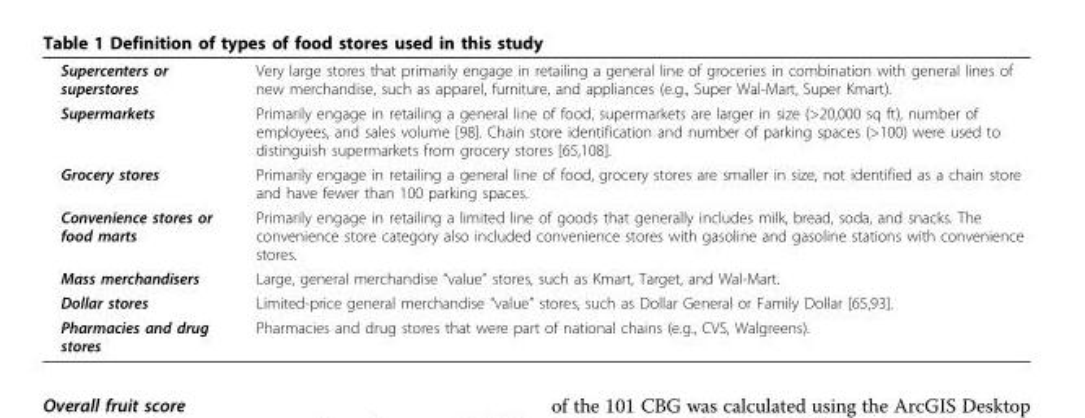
<table><tbody><tr><td>Supercenters or superstores</td><td>Very large stores that primarily engage in retailing a general line of groceries in combination with general lines of new merchandise, such as apparel, furniture, and appliances (e.g., Super Wal-Mart, Super Kmart).</td></tr><tr><td>Supermarkets</td><td>Primarily engage in retailing a general line of food, supermarkets are larger in size (&gt;20,000 sq ft), number of employees, and sales volume [98]. Chain store identification and number of parking spaces (&gt;100) were used to distinguish supermarkets from grocery stores [65,108].</td></tr><tr><td>Grocery stores</td><td>Primarily engage in retailing a general line of food, grocery stores are smaller in size, not identified as a chain store and have fewer than 100 parking spaces.</td></tr><tr><td>Convenience stores or food marts</td><td>Primarily engage in retailing a limited line of goods that generally includes milk, bread, soda, and snacks. The convenience store category also included convenience stores with gasoline and gasoline stations with convenience stores.</td></tr><tr><td>Mass merchandisers</td><td>Large, general merchandise “value” stores, such as Kmart, Target, and Wal-Mart.</td></tr><tr><td>Dollar stores</td><td>Limited-price general merchandise “value” stores, such as Dollar General or Family Dollar [65,93].</td></tr><tr><td>Pharmacies and drug stores</td><td>Pharmacies and drug stores that were part of national chains (e.g., CVS, Walgreens).</td></tr></tbody></table>